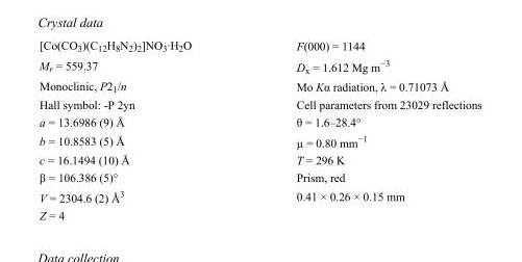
<table><tbody><tr><td>[Co(CO<sub>3</sub>)(C<sub>12</sub>H<sub>8</sub>N<sub>2</sub>)<sub>2</sub>]NO<sub>3</sub>·H<sub>2</sub>O</td><td>F(000) = 1144</td></tr><tr><td>M<sub>r</sub> = 559.37</td><td>D<sub>x</sub> = 1.612 Mg m<sup>−3</sup></td></tr><tr><td>Monoclinic, P2<sub>1</sub>/n</td><td>Mo Kα radiation, λ = 0.71073 Å</td></tr><tr><td>Hall symbol: -P 2yn</td><td>Cell parameters from 23029 reflections</td></tr><tr><td>a = 13.6986 (9) Å</td><td>θ = 1.6–28.4°</td></tr><tr><td>b = 10.8583 (5) Å</td><td>µ = 0.80 mm<sup>−1</sup></td></tr><tr><td>c = 16.1494 (10) Å</td><td>T = 296 K</td></tr><tr><td>β = 106.386 (5)°</td><td>Prism, red</td></tr><tr><td>V = 2304.6 (2) Å<sup>3</sup></td><td>0.41 × 0.26 × 0.15 mm</td></tr><tr><td>Z = 4</td><td></td></tr></tbody></table>